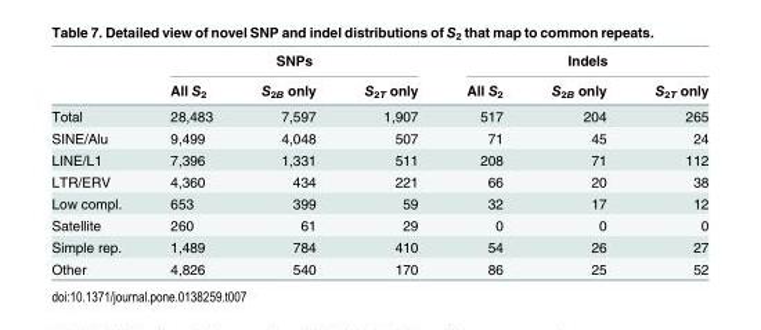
<table><thead><tr><td rowspan="2"></td><td colspan="3">SNPs</td><td colspan="3">Indels</td></tr><tr><td>All S<sub>2</sub></td><td>S<sub>2B</sub> only</td><td>S<sub>2T</sub> only</td><td>All S<sub>2</sub></td><td>S<sub>2B</sub> only</td><td>S<sub>2T</sub> only</td></tr></thead><tbody><tr><td>Total</td><td>28,483</td><td>7,597</td><td>1,907</td><td>517</td><td>204</td><td>265</td></tr><tr><td>SINE/Alu</td><td>9,499</td><td>4,048</td><td>507</td><td>71</td><td>45</td><td>24</td></tr><tr><td>LINE/L1</td><td>7,396</td><td>1,331</td><td>511</td><td>208</td><td>71</td><td>112</td></tr><tr><td>LTR/ERV</td><td>4,360</td><td>434</td><td>221</td><td>66</td><td>20</td><td>38</td></tr><tr><td>Low compl.</td><td>653</td><td>399</td><td>59</td><td>32</td><td>17</td><td>12</td></tr><tr><td>Satellite</td><td>260</td><td>61</td><td>29</td><td>0</td><td>0</td><td>0</td></tr><tr><td>Simple rep.</td><td>1,489</td><td>784</td><td>410</td><td>54</td><td>26</td><td>27</td></tr><tr><td>Other</td><td>4,826</td><td>540</td><td>170</td><td>86</td><td>25</td><td>52</td></tr></tbody></table>